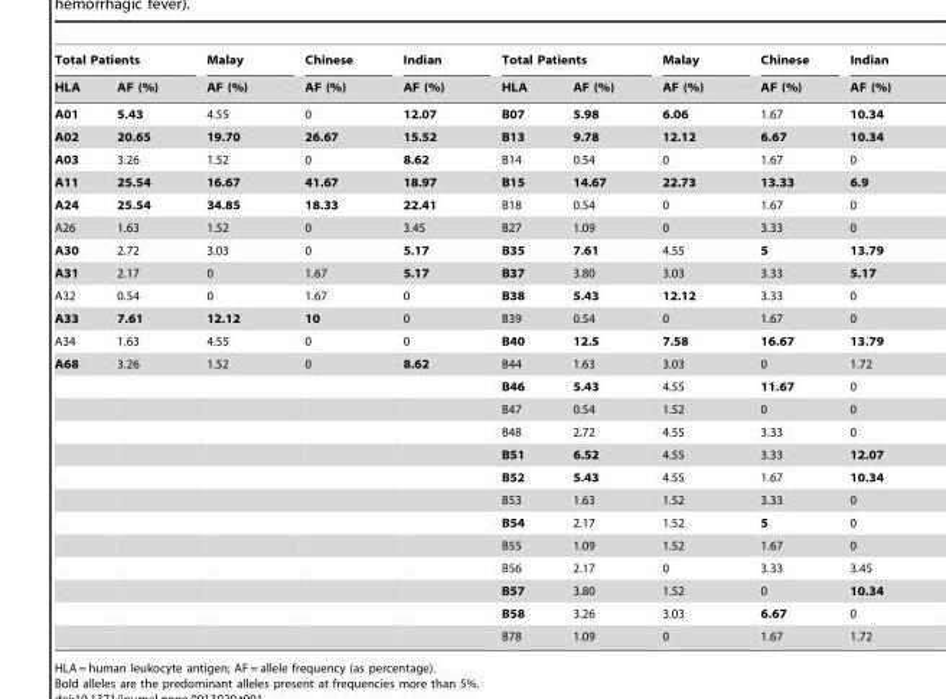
<table><thead><tr><td colspan="2">Total Patients</td><td rowspan="2">Malay AF (%)</td><td rowspan="2">Chinese AF (%)</td><td rowspan="2">Indian AF (%)</td><td colspan="2">Total Patients</td><td rowspan="2">Malay AF (%)</td><td rowspan="2">Chinese AF (%)</td><td rowspan="2">Indian AF (%)</td></tr><tr><td>HLA</td><td>AF (%)</td><td>HLA</td><td>AF (%)</td></tr></thead><tbody><tr><td>A01</td><td>5.43</td><td>4.55</td><td>0</td><td>12.07</td><td>B07</td><td>5.98</td><td>6.06</td><td>1.67</td><td>10.34</td></tr><tr><td>A02</td><td>20.65</td><td>19.70</td><td>26.67</td><td>15.52</td><td>B13</td><td>9.78</td><td>12.12</td><td>6.67</td><td>10.34</td></tr><tr><td>A03</td><td>3.26</td><td>1.52</td><td>0</td><td>8.62</td><td>B14</td><td>0.54</td><td>0</td><td>1.67</td><td>0</td></tr><tr><td>A11</td><td>25.54</td><td>16.67</td><td>41.67</td><td>18.97</td><td>B15</td><td>14.67</td><td>22.73</td><td>13.33</td><td>6.9</td></tr><tr><td>A24</td><td>25.54</td><td>34.85</td><td>18.33</td><td>22.41</td><td>B18</td><td>0.54</td><td>0</td><td>1.67</td><td>0</td></tr><tr><td>A26</td><td>1.63</td><td>1.52</td><td>0</td><td>3.45</td><td>B27</td><td>1.09</td><td>0</td><td>3.33</td><td>0</td></tr><tr><td>A30</td><td>2.72</td><td>3.03</td><td>0</td><td>5.17</td><td>B35</td><td>7.61</td><td>4.55</td><td>5</td><td>13.79</td></tr><tr><td>A31</td><td>2.17</td><td>0</td><td>1.67</td><td>5.17</td><td>B37</td><td>3.80</td><td>3.03</td><td>3.33</td><td>5.17</td></tr><tr><td>A32</td><td>0.54</td><td>0</td><td>1.67</td><td>0</td><td>B38</td><td>5.43</td><td>12.12</td><td>3.33</td><td>0</td></tr><tr><td>A33</td><td>7.61</td><td>12.12</td><td>10</td><td>0</td><td>B39</td><td>0.54</td><td>0</td><td>1.67</td><td>0</td></tr><tr><td>A34</td><td>1.63</td><td>4.55</td><td>0</td><td>0</td><td>B40</td><td>12.5</td><td>7.58</td><td>16.67</td><td>13.79</td></tr><tr><td rowspan="13">A68</td><td>3.26</td><td>1.52</td><td>0</td><td>8.62</td><td>B44</td><td>1.63</td><td>3.03</td><td>0</td><td>1.72</td></tr><tr><td></td><td></td><td></td><td></td><td>B46</td><td>5.43</td><td>4.55</td><td>11.67</td><td>0</td></tr><tr><td></td><td></td><td></td><td></td><td>B47</td><td>0.54</td><td>1.52</td><td>0</td><td>0</td></tr><tr><td></td><td></td><td></td><td></td><td>B48</td><td>2.72</td><td>4.55</td><td>3.33</td><td>0</td></tr><tr><td></td><td></td><td></td><td></td><td>B51</td><td>6.52</td><td>4.55</td><td>3.33</td><td>12.07</td></tr><tr><td></td><td></td><td></td><td></td><td>B52</td><td>5.43</td><td>4.55</td><td>1.67</td><td>10.34</td></tr><tr><td></td><td></td><td></td><td></td><td>B53</td><td>1.63</td><td>1.52</td><td>3.33</td><td>0</td></tr><tr><td></td><td></td><td></td><td></td><td>B54</td><td>2.17</td><td>1.52</td><td>5</td><td>0</td></tr><tr><td></td><td></td><td></td><td></td><td>B55</td><td>1.09</td><td>1.52</td><td>1.67</td><td>0</td></tr><tr><td></td><td></td><td></td><td></td><td>B56</td><td>2.17</td><td>0</td><td>3.33</td><td>3.45</td></tr><tr><td></td><td></td><td></td><td></td><td>B57</td><td>3.80</td><td>1.52</td><td>0</td><td>10.34</td></tr><tr><td></td><td></td><td></td><td></td><td>B58</td><td>3.26</td><td>3.03</td><td>6.67</td><td>0</td></tr><tr><td></td><td></td><td></td><td></td><td>B78</td><td>1.09</td><td>0</td><td>1.67</td><td>1.72</td></tr></tbody></table>